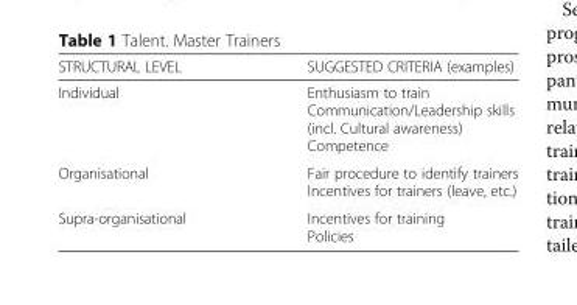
<table><thead><tr><td>STRUCTURAL LEVEL</td><td>SUGGESTED CRITERIA (examples)</td></tr></thead><tbody><tr><td>Individual</td><td>Enthusiasm to train Communication/Leadership skills (incl. Cultural awareness) Competence</td></tr><tr><td>Organisational</td><td>Fair procedure to identify trainers Incentives for trainers (leave, etc.)</td></tr><tr><td>Supra-organisational</td><td>Incentives for training Policies</td></tr></tbody></table>